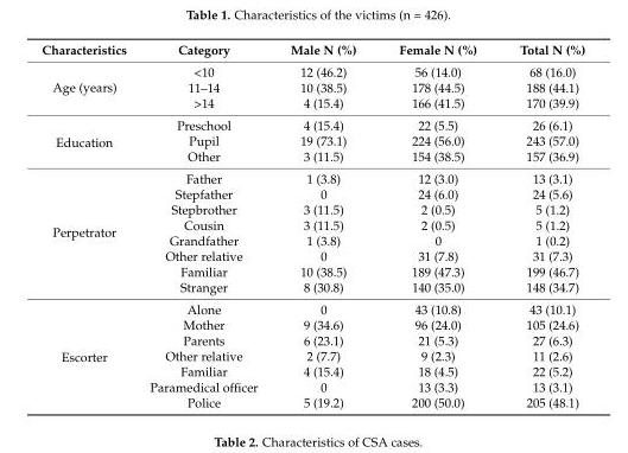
<table><thead><tr><td>Characteristics</td><td>Category</td><td>Male N (%)</td><td>Female N (%)</td><td>Total N (%)</td></tr></thead><tbody><tr><td rowspan="3">Age (years)</td><td>&lt;10</td><td>12 (46.2)</td><td>56 (14.0)</td><td>68 (16.0)</td></tr><tr><td>11–14</td><td>10 (38.5)</td><td>178 (44.5)</td><td>188 (44.1)</td></tr><tr><td>&gt;14</td><td>4 (15.4)</td><td>166 (41.5)</td><td>170 (39.9)</td></tr><tr><td rowspan="3">Education</td><td>Preschool</td><td>4 (15.4)</td><td>22 (5.5)</td><td>26 (6.1)</td></tr><tr><td>Pupil</td><td>19 (73.1)</td><td>224 (56.0)</td><td>243 (57.0)</td></tr><tr><td>Other</td><td>3 (11.5)</td><td>154 (38.5)</td><td>157 (36.9)</td></tr><tr><td rowspan="8">Perpetrator</td><td>Father</td><td>1 (3.8)</td><td>12 (3.0)</td><td>13 (3.1)</td></tr><tr><td>Stepfather</td><td>0</td><td>24 (6.0)</td><td>24 (5.6)</td></tr><tr><td>Stepbrother</td><td>3 (11.5)</td><td>2 (0.5)</td><td>5 (1.2)</td></tr><tr><td>Cousin</td><td>3 (11.5)</td><td>2 (0.5)</td><td>5 (1.2)</td></tr><tr><td>Grandfather</td><td>1 (3.8)</td><td>0</td><td>1 (0.2)</td></tr><tr><td>Other relative</td><td>0</td><td>31 (7.8)</td><td>31 (7.3)</td></tr><tr><td>Familiar</td><td>10 (38.5)</td><td>189 (47.3)</td><td>199 (46.7)</td></tr><tr><td>Stranger</td><td>8 (30.8)</td><td>140 (35.0)</td><td>148 (34.7)</td></tr><tr><td rowspan="7">Escorter</td><td>Alone</td><td>0</td><td>43 (10.8)</td><td>43 (10.1)</td></tr><tr><td>Mother</td><td>9 (34.6)</td><td>96 (24.0)</td><td>105 (24.6)</td></tr><tr><td>Parents</td><td>6 (23.1)</td><td>21 (5.3)</td><td>27 (6.3)</td></tr><tr><td>Other relative</td><td>2 (7.7)</td><td>9 (2.3)</td><td>11 (2.6)</td></tr><tr><td>Familiar</td><td>4 (15.4)</td><td>18 (4.5)</td><td>22 (5.2)</td></tr><tr><td>Paramedical officer</td><td>0</td><td>13 (3.3)</td><td>13 (3.1)</td></tr><tr><td>Police</td><td>5 (19.2)</td><td>200 (50.0)</td><td>205 (48.1)</td></tr></tbody></table>